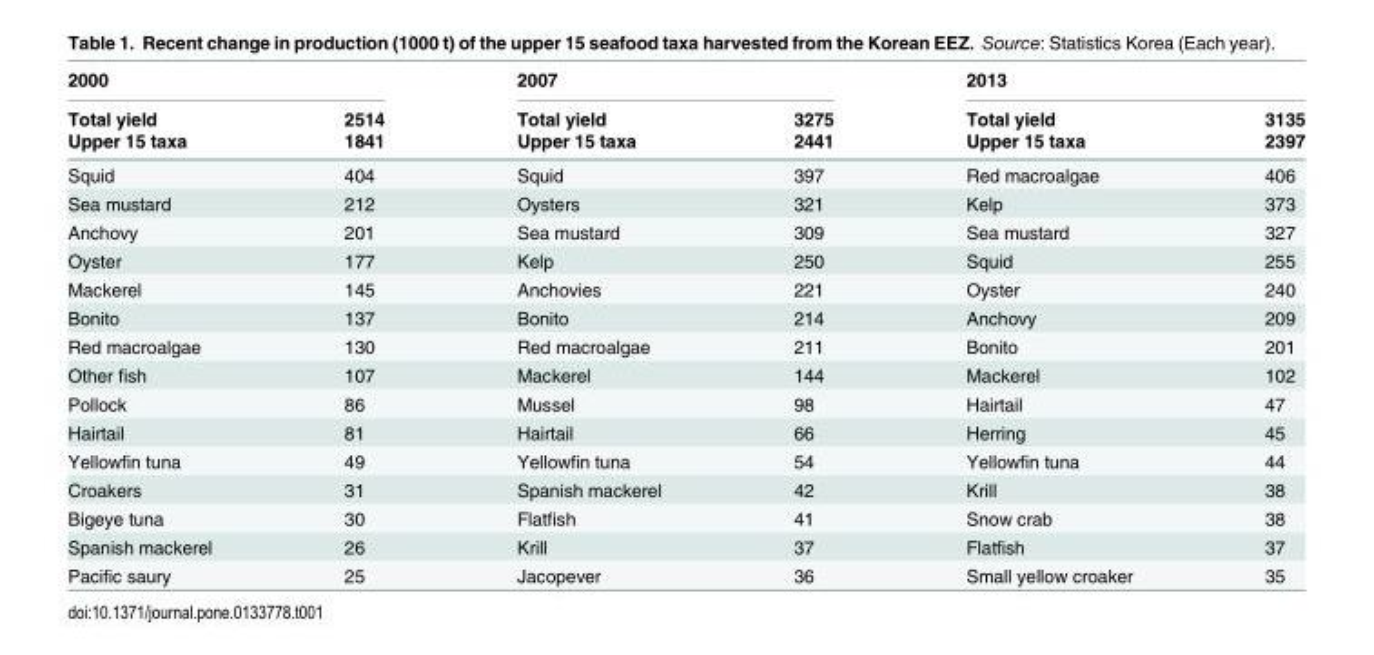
<table><thead><tr><td colspan="2">2000</td><td colspan="2">2007</td><td colspan="2">2013</td></tr><tr><td rowspan="2">Total yield Upper 15 taxa</td><td rowspan="2">2514 1841</td><td rowspan="2">Total yield Upper 15 taxa</td><td rowspan="2">3275 2441</td><td rowspan="2">Total yield Upper 15 taxa</td><td rowspan="2">3135 2397</td></tr><tr></tr></thead><tbody><tr><td>Squid</td><td>404</td><td>Squid</td><td>397</td><td>Red macroalgae</td><td>406</td></tr><tr><td>Sea mustard</td><td>212</td><td>Oysters</td><td>321</td><td>Kelp</td><td>373</td></tr><tr><td>Anchovy</td><td>201</td><td>Sea mustard</td><td>309</td><td>Sea mustard</td><td>327</td></tr><tr><td>Oyster</td><td>177</td><td>Kelp</td><td>250</td><td>Squid</td><td>255</td></tr><tr><td>Mackerel</td><td>145</td><td>Anchovies</td><td>221</td><td>Oyster</td><td>240</td></tr><tr><td>Bonito</td><td>137</td><td>Bonito</td><td>214</td><td>Anchovy</td><td>209</td></tr><tr><td>Red macroalgae</td><td>130</td><td>Red macroalgae</td><td>211</td><td>Bonito</td><td>201</td></tr><tr><td>Other fish</td><td>107</td><td>Mackerel</td><td>144</td><td>Mackerel</td><td>102</td></tr><tr><td>Pollock</td><td>86</td><td>Mussel</td><td>98</td><td>Hairtail</td><td>47</td></tr><tr><td>Hairtail</td><td>81</td><td>Hairtail</td><td>66</td><td>Herring</td><td>45</td></tr><tr><td>Yellowfin tuna</td><td>49</td><td>Yellowfin tuna</td><td>54</td><td>Yellowfin tuna</td><td>44</td></tr><tr><td>Croakers</td><td>31</td><td>Spanish mackerel</td><td>42</td><td>Krill</td><td>38</td></tr><tr><td>Bigeye tuna</td><td>30</td><td>Flatfish</td><td>41</td><td>Snow crab</td><td>38</td></tr><tr><td>Spanish mackerel</td><td>26</td><td>Krill</td><td>37</td><td>Flatfish</td><td>37</td></tr><tr><td>Pacific saury</td><td>25</td><td>Jacopever</td><td>36</td><td>Small yellow croaker</td><td>35</td></tr></tbody></table>